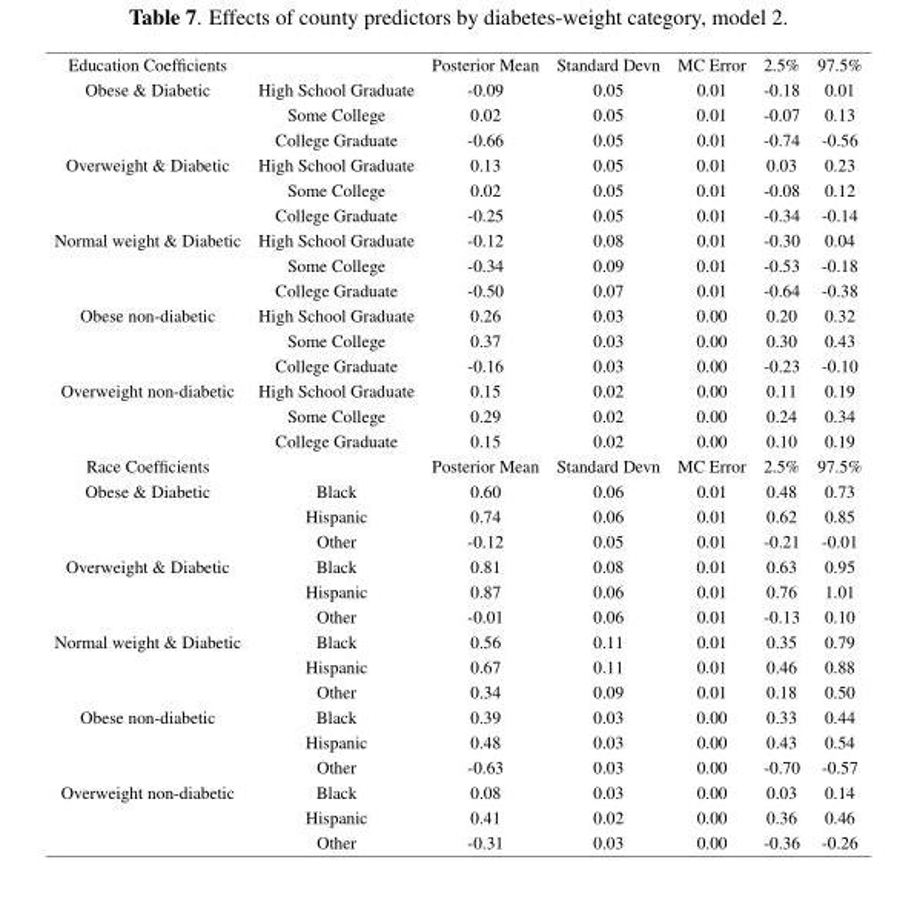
<table><thead><tr><td>Education Coefficients</td><td></td><td>Posterior Mean</td><td>Standard Devn</td><td>MC Error</td><td>2.5%</td><td>97.5%</td></tr></thead><tbody><tr><td rowspan="3">Obese &amp; Diabetic</td><td>High School Graduate</td><td>-0.09</td><td>0.05</td><td>0.01</td><td>-0.18</td><td>0.01</td></tr><tr><td>Some College</td><td>0.02</td><td>0.05</td><td>0.01</td><td>-0.07</td><td>0.13</td></tr><tr><td>College Graduate</td><td>-0.66</td><td>0.05</td><td>0.01</td><td>-0.74</td><td>-0.56</td></tr><tr><td rowspan="3">Overweight &amp; Diabetic</td><td>High School Graduate</td><td>0.13</td><td>0.05</td><td>0.01</td><td>0.03</td><td>0.23</td></tr><tr><td>Some College</td><td>0.02</td><td>0.05</td><td>0.01</td><td>-0.08</td><td>0.12</td></tr><tr><td>College Graduate</td><td>-0.25</td><td>0.05</td><td>0.01</td><td>-0.34</td><td>-0.14</td></tr><tr><td rowspan="3">Normal weight &amp; Diabetic</td><td>High School Graduate</td><td>-0.12</td><td>0.08</td><td>0.01</td><td>-0.30</td><td>0.04</td></tr><tr><td>Some College</td><td>-0.34</td><td>0.09</td><td>0.01</td><td>-0.53</td><td>-0.18</td></tr><tr><td>College Graduate</td><td>-0.50</td><td>0.07</td><td>0.01</td><td>-0.64</td><td>-0.38</td></tr><tr><td rowspan="3">Obese non-diabetic</td><td>High School Graduate</td><td>0.26</td><td>0.03</td><td>0.00</td><td>0.20</td><td>0.32</td></tr><tr><td>Some College</td><td>0.37</td><td>0.03</td><td>0.00</td><td>0.30</td><td>0.43</td></tr><tr><td>College Graduate</td><td>-0.16</td><td>0.03</td><td>0.00</td><td>-0.23</td><td>-0.10</td></tr><tr><td rowspan="3">Overweight non-diabetic</td><td>High School Graduate</td><td>0.15</td><td>0.02</td><td>0.00</td><td>0.11</td><td>0.19</td></tr><tr><td>Some College</td><td>0.29</td><td>0.02</td><td>0.00</td><td>0.24</td><td>0.34</td></tr><tr><td>College Graduate</td><td>0.15</td><td>0.02</td><td>0.00</td><td>0.10</td><td>0.19</td></tr><tr><td>Race Coefficients</td><td></td><td>Posterior Mean</td><td>Standard Devn</td><td>MC Error</td><td>2.5%</td><td>97.5%</td></tr><tr><td rowspan="3">Obese &amp; Diabetic</td><td>Black</td><td>0.60</td><td>0.06</td><td>0.01</td><td>0.48</td><td>0.73</td></tr><tr><td>Hispanic</td><td>0.74</td><td>0.06</td><td>0.01</td><td>0.62</td><td>0.85</td></tr><tr><td>Other</td><td>-0.12</td><td>0.05</td><td>0.01</td><td>-0.21</td><td>-0.01</td></tr><tr><td rowspan="3">Overweight &amp; Diabetic</td><td>Black</td><td>0.81</td><td>0.08</td><td>0.01</td><td>0.63</td><td>0.95</td></tr><tr><td>Hispanic</td><td>0.87</td><td>0.06</td><td>0.01</td><td>0.76</td><td>1.01</td></tr><tr><td>Other</td><td>-0.01</td><td>0.06</td><td>0.01</td><td>-0.13</td><td>0.10</td></tr><tr><td rowspan="3">Normal weight &amp; Diabetic</td><td>Black</td><td>0.56</td><td>0.11</td><td>0.01</td><td>0.35</td><td>0.79</td></tr><tr><td>Hispanic</td><td>0.67</td><td>0.11</td><td>0.01</td><td>0.46</td><td>0.88</td></tr><tr><td>Other</td><td>0.34</td><td>0.09</td><td>0.01</td><td>0.18</td><td>0.50</td></tr><tr><td rowspan="3">Obese non-diabetic</td><td>Black</td><td>0.39</td><td>0.03</td><td>0.00</td><td>0.33</td><td>0.44</td></tr><tr><td>Hispanic</td><td>0.48</td><td>0.03</td><td>0.00</td><td>0.43</td><td>0.54</td></tr><tr><td>Other</td><td>-0.63</td><td>0.03</td><td>0.00</td><td>-0.70</td><td>-0.57</td></tr><tr><td rowspan="3">Overweight non-diabetic</td><td>Black</td><td>0.08</td><td>0.03</td><td>0.00</td><td>0.03</td><td>0.14</td></tr><tr><td>Hispanic</td><td>0.41</td><td>0.02</td><td>0.00</td><td>0.36</td><td>0.46</td></tr><tr><td>Other</td><td>-0.31</td><td>0.03</td><td>0.00</td><td>-0.36</td><td>-0.26</td></tr></tbody></table>